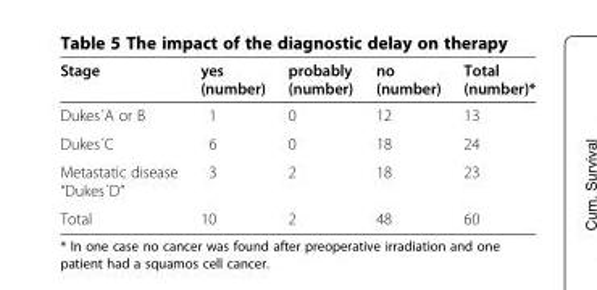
<table><thead><tr><td>Stage</td><td>yes (number)</td><td>probably (number)</td><td>no (number)</td><td>Total (number)*</td></tr></thead><tbody><tr><td>Dukes´A or B</td><td>1</td><td>0</td><td>12</td><td>13</td></tr><tr><td>Dukes´C</td><td>6</td><td>0</td><td>18</td><td>24</td></tr><tr><td>Metastatic disease “Dukes´D”</td><td>3</td><td>2</td><td>18</td><td>23</td></tr><tr><td>Total</td><td>10</td><td>2</td><td>48</td><td>60</td></tr></tbody></table>